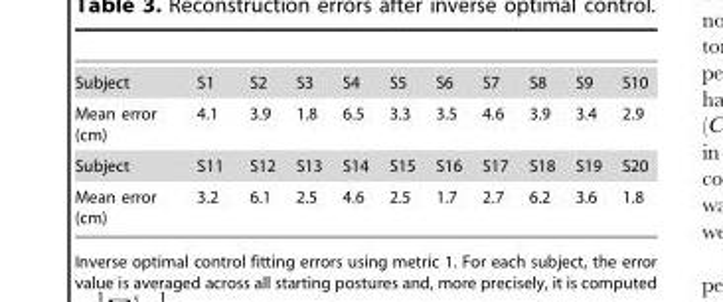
<table><tbody><tr><td>Subject</td><td>S1</td><td>S2</td><td>S3</td><td>S4</td><td>S5</td><td>S6</td><td>S7</td><td>S8</td><td>S9</td><td>S10</td></tr><tr><td>Mean error (cm)</td><td>4.1</td><td>3.9</td><td>1.8</td><td>6.5</td><td>3.3</td><td>3.5</td><td>4.6</td><td>3.9</td><td>3.4</td><td>2.9</td></tr><tr><td>Subject</td><td>S11</td><td>S12</td><td>S13</td><td>S14</td><td>S15</td><td>S16</td><td>S17</td><td>S18</td><td>S19</td><td>S20</td></tr><tr><td>Mean error (cm)</td><td>3.2</td><td>6.1</td><td>2.5</td><td>4.6</td><td>2.5</td><td>1.7</td><td>2.7</td><td>6.2</td><td>3.6</td><td>1.8</td></tr></tbody></table>